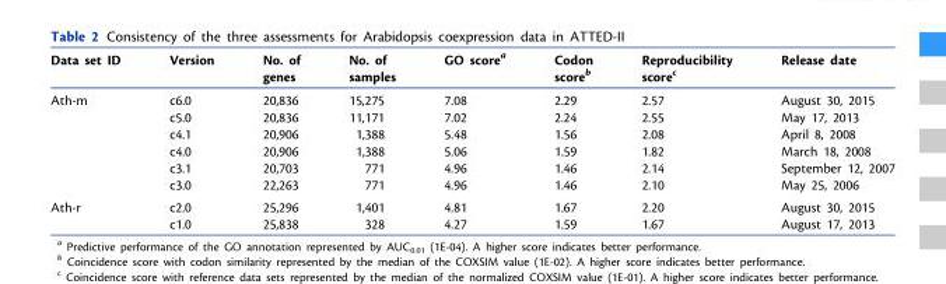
<table><thead><tr><td>Data set ID</td><td>Version</td><td>No. of genes</td><td>No. of samples</td><td>GO score<sup>a</sup></td><td>Codon score<sup>b</sup></td><td>Reproducibility score<sup>c</sup></td><td>Release date</td></tr></thead><tbody><tr><td rowspan="6">Ath-m</td><td>c6.0</td><td>20,836</td><td>15,275</td><td>7.08</td><td>2.29</td><td>2.57</td><td>August 30, 2015</td></tr><tr><td>c5.0</td><td>20,836</td><td>11,171</td><td>7.02</td><td>2.24</td><td>2.55</td><td>May 17, 2013</td></tr><tr><td>c4.1</td><td>20,906</td><td>1,388</td><td>5.48</td><td>1.56</td><td>2.08</td><td>April 8, 2008</td></tr><tr><td>c4.0</td><td>20,906</td><td>1,388</td><td>5.06</td><td>1.59</td><td>1.82</td><td>March 18, 2008</td></tr><tr><td>c3.1</td><td>20,703</td><td>771</td><td>4.96</td><td>1.46</td><td>2.14</td><td>September 12, 2007</td></tr><tr><td>c3.0</td><td>22,263</td><td>771</td><td>4.96</td><td>1.46</td><td>2.10</td><td>May 25, 2006</td></tr><tr><td rowspan="2">Ath-r</td><td>c2.0</td><td>25,296</td><td>1,401</td><td>4.81</td><td>1.67</td><td>2.20</td><td>August 30, 2015</td></tr><tr><td>c1.0</td><td>25,838</td><td>328</td><td>4.27</td><td>1.59</td><td>1.67</td><td>August 17, 2013</td></tr></tbody></table>